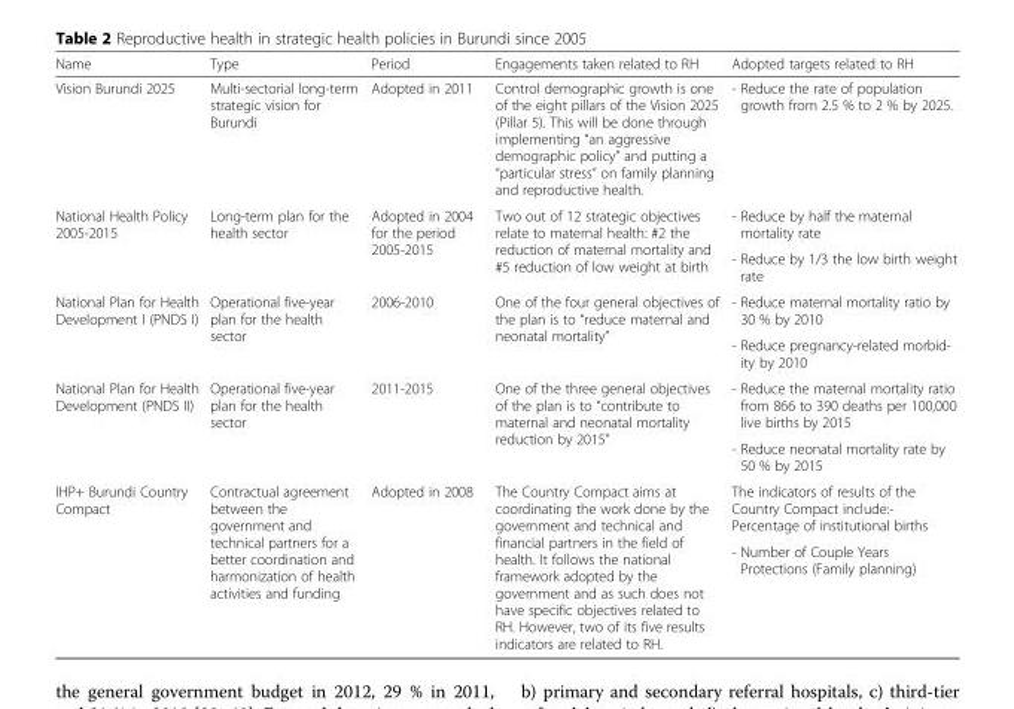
<table><thead><tr><td>Name</td><td>Type</td><td>Period</td><td>Engagements taken related to RH</td><td>Adopted targets related to RH</td></tr></thead><tbody><tr><td>Vision Burundi 2025</td><td>Multi-sectorial long-term strategic vision for Burundi</td><td>Adopted in 2011</td><td>Control demographic growth is one of the eight pillars of the Vision 2025 (Pillar 5). This will be done through implementing “an aggressive demographic policy” and putting a “particular stress” on family planning and reproductive health.</td><td>- Reduce the rate of population growth from 2.5 % to 2 % by 2025.</td></tr><tr><td rowspan="2">National Health Policy 2005-2015</td><td rowspan="2">Long-term plan for the health sector</td><td rowspan="2">Adopted in 2004 for the period 2005-2015</td><td rowspan="2">Two out of 12 strategic objectives relate to maternal health: #2 the reduction of maternal mortality and #5 reduction of low weight at birth</td><td>- Reduce by half the maternal mortality rate</td></tr><tr><td>- Reduce by 1/3 the low birth weight rate</td></tr><tr><td rowspan="2">National Plan for Health Development I (PNDS I)</td><td rowspan="2">Operational five-year plan for the health sector</td><td rowspan="2">2006-2010</td><td rowspan="2">One of the four general objectives of the plan is to “reduce maternal and neonatal mortality”</td><td>- Reduce maternal mortality ratio by 30 % by 2010</td></tr><tr><td>- Reduce pregnancy-related morbid- ity by 2010</td></tr><tr><td rowspan="2">National Plan for Health Development (PNDS II)</td><td rowspan="2">Operational five-year plan for the health sector</td><td rowspan="2">2011-2015</td><td rowspan="2">One of the three general objectives of the plan is to “contribute to maternal and neonatal mortality reduction by 2015”</td><td>- Reduce the maternal mortality ratio from 866 to 390 deaths per 100,000 live births by 2015</td></tr><tr><td>- Reduce neonatal mortality rate by 50 % by 2015</td></tr><tr><td rowspan="2">IHP+ Burundi Country Compact</td><td rowspan="2">Contractual agreement between the government and technical partners for a better coordination and harmonization of health activities and funding</td><td rowspan="2">Adopted in 2008</td><td rowspan="2">The Country Compact aims at coordinating the work done by the government and technical and financial partners in the field of health. It follows the national framework adopted by the government and as such does not have specific objectives related to RH. However, two of its five results indicators are related to RH.</td><td>The indicators of results of the Country Compact include:- Percentage of institutional births</td></tr><tr><td>- Number of Couple Years Protections (Family planning)</td></tr></tbody></table>